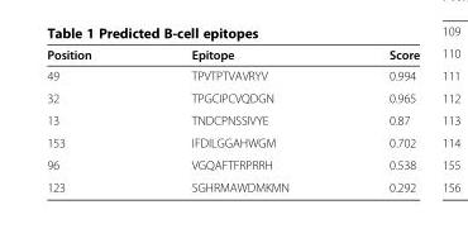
<table><thead><tr><td>Position</td><td>Epitope</td><td>Score</td></tr></thead><tbody><tr><td>49</td><td>TPVTPTVAVRYV</td><td>0.994</td></tr><tr><td>32</td><td>TPGCIPCVQDGN</td><td>0.965</td></tr><tr><td>13</td><td>TNDCPNSSIVYE</td><td>0.87</td></tr><tr><td>153</td><td>IFDILGGAHWGM</td><td>0.702</td></tr><tr><td>96</td><td>VGQAFTFRPRRH</td><td>0.538</td></tr><tr><td>123</td><td>SGHRMAWDMKMN</td><td>0.292</td></tr></tbody></table>